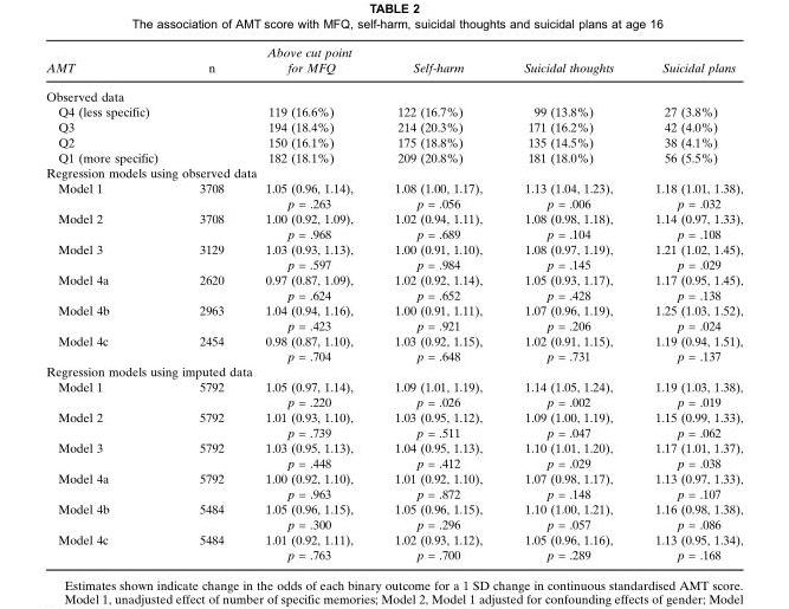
<table><thead><tr><td>AMT</td><td>n</td><td>Above cut point for MFQ</td><td>Self-harm</td><td>Suicidal thoughts</td><td>Suicidal plans</td></tr></thead><tbody><tr><td colspan="6">Observed data</td></tr><tr><td>Q4 (less specific)</td><td></td><td>119 (16.6%)</td><td>122 (16.7%)</td><td>99 (13.8%)</td><td>27 (3.8%)</td></tr><tr><td>Q3</td><td></td><td>194 (18.4%)</td><td>214 (20.3%)</td><td>171 (16.2%)</td><td>42 (4.0%)</td></tr><tr><td>Q2</td><td></td><td>150 (16.1%)</td><td>175 (18.8%)</td><td>135 (14.5%)</td><td>38 (4.1%)</td></tr><tr><td>Q1 (more specific)</td><td></td><td>182 (18.1%)</td><td>209 (20.8%)</td><td>181 (18.0%)</td><td>56 (5.5%)</td></tr><tr><td colspan="6">Regression models using observed data</td></tr><tr><td>Model 1</td><td>3708</td><td>1.05 (0.96, 1.14), p = .263</td><td>1.08 (1.00, 1.17), p = .056</td><td>1.13 (1.04, 1.23), p = .006</td><td>1.18 (1.01, 1.38), p = .032</td></tr><tr><td>Model 2</td><td>3708</td><td>1.00 (0.92, 1.09), p = .968</td><td>1.02 (0.94, 1.11), p = .689</td><td>1.08 (0.98, 1.18), p = .104</td><td>1.14 (0.97, 1.33), p = .108</td></tr><tr><td>Model 3</td><td>3129</td><td>1.03 (0.93, 1.13), p = .597</td><td>1.00 (0.91, 1.10), p = .984</td><td>1.08 (0.97, 1.19), p = .145</td><td>1.21 (1.02, 1.45), p = .029</td></tr><tr><td>Model 4a</td><td>2620</td><td>0.97 (0.87, 1.09), p = .624</td><td>1.02 (0.92, 1.14), p = .652</td><td>1.05 (0.93, 1.17), p = .428</td><td>1.17 (0.95, 1.45), p = .138</td></tr><tr><td>Model 4b</td><td>2963</td><td>1.04 (0.94, 1.16), p = .423</td><td>1.00 (0.91, 1.11), p = .921</td><td>1.07 (0.96, 1.19), p = .206</td><td>1.25 (1.03, 1.52), p = .024</td></tr><tr><td>Model 4c</td><td>2454</td><td>0.98 (0.87, 1.10), p = .704</td><td>1.03 (0.92, 1.15), p = .648</td><td>1.02 (0.91, 1.15), p = .731</td><td>1.19 (0.94, 1.51), p = .137</td></tr><tr><td colspan="6">Regression models using imputed data</td></tr><tr><td>Model 1</td><td>5792</td><td>1.05 (0.97, 1.14), p = .220</td><td>1.09 (1.01, 1.19), p = .026</td><td>1.14 (1.05, 1.24), p = .002</td><td>1.19 (1.03, 1.38), p = .019</td></tr><tr><td>Model 2</td><td>5792</td><td>1.01 (0.93, 1.10), p = .739</td><td>1.03 (0.95, 1.12), p = .511</td><td>1.09 (1.00, 1.19), p = .047</td><td>1.15 (0.99, 1.33), p = .062</td></tr><tr><td>Model 3</td><td>5792</td><td>1.03 (0.95, 1.13), p = .448</td><td>1.04 (0.95, 1.13), p = .412</td><td>1.10 (1.01, 1.20), p = .029</td><td>1.17 (1.01, 1.37), p = .038</td></tr><tr><td>Model 4a</td><td>5792</td><td>1.00 (0.92, 1.10), p = .963</td><td>1.01 (0.92, 1.10), p = .872</td><td>1.07 (0.98, 1.17), p = .148</td><td>1.13 (0.97, 1.33), p = .107</td></tr><tr><td>Model 4b</td><td>5484</td><td>1.05 (0.96, 1.15), p = .300</td><td>1.05 (0.96, 1.15), p = .296</td><td>1.10 (1.00, 1.21), p = .057</td><td>1.16 (0.98, 1.38), p = .086</td></tr><tr><td>Model 4c</td><td>5484</td><td>1.01 (0.92, 1.11), p = .763</td><td>1.02 (0.93, 1.12), p = .700</td><td>1.05 (0.96, 1.16), p = .289</td><td>1.13 (0.95, 1.34), p = .168</td></tr></tbody></table>